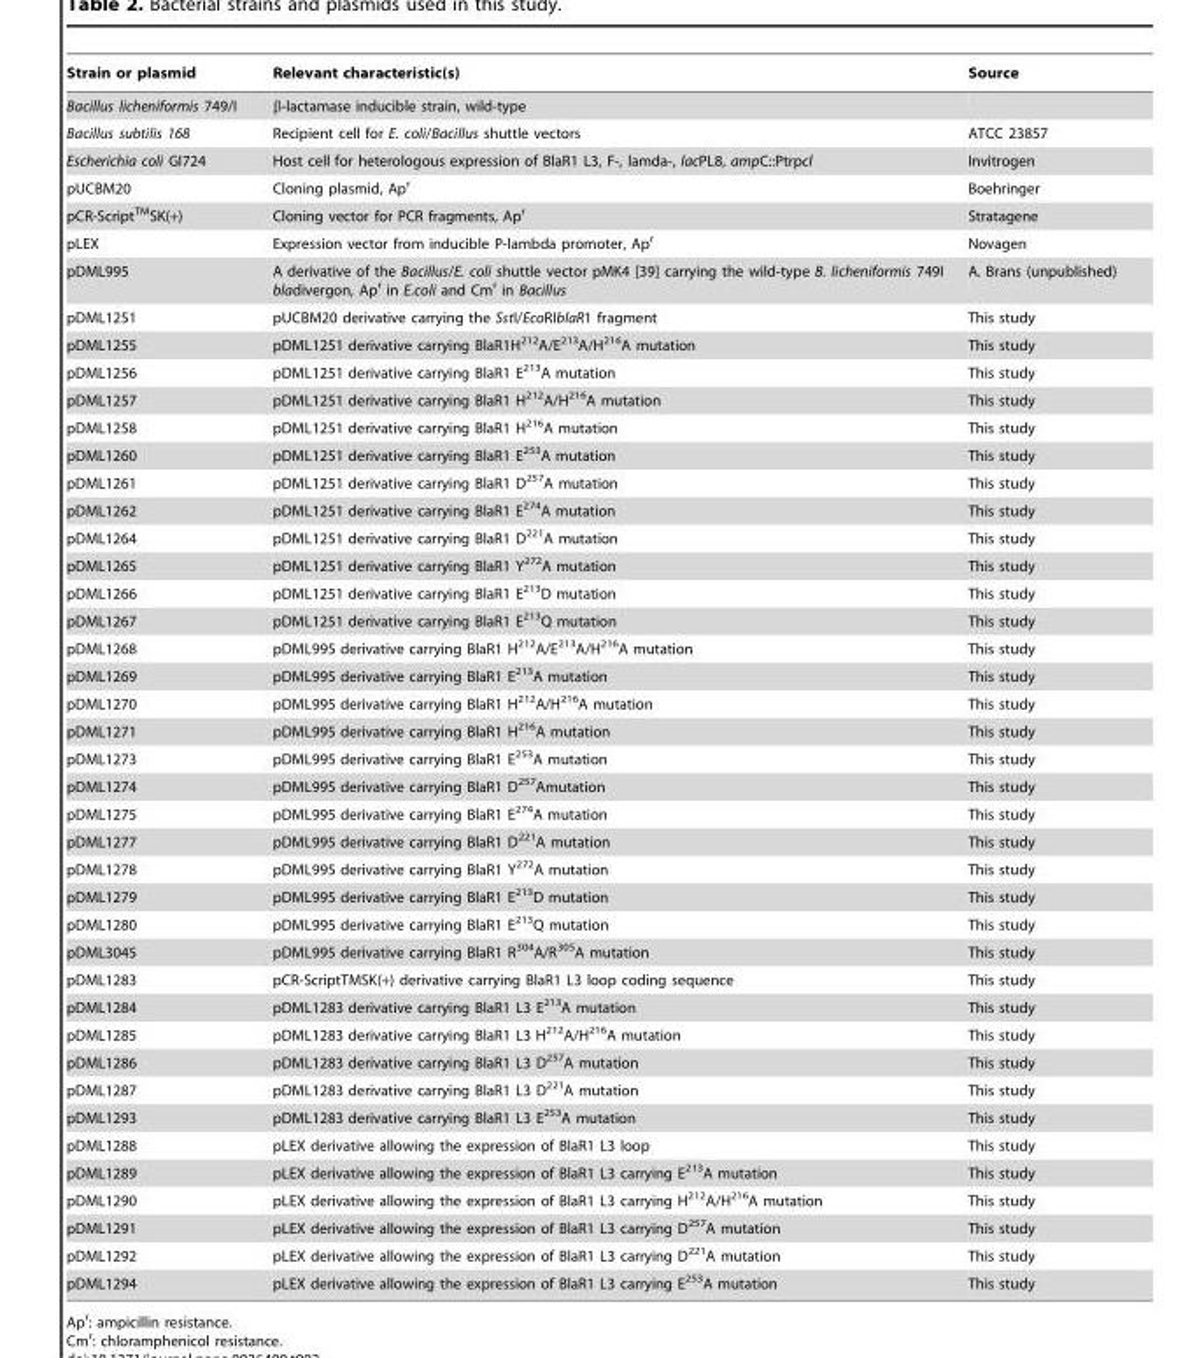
<table><thead><tr><td>Strain or plasmid</td><td>Relevant characteristic(s)</td><td>Source</td></tr></thead><tbody><tr><td>Bacillus licheniformis 749/I</td><td>β-lactamase inducible strain, wild-type</td><td></td></tr><tr><td>Bacillus subtilis 168</td><td>Recipient cell for E. coli/Bacillus shuttle vectors</td><td>ATCC 23857</td></tr><tr><td>Escherichia coli GI724</td><td>Host cell for heterologous expression of BlaR1 L3, F-, lamda-, lacPL8, ampC::Ptrpcl</td><td>Invitrogen</td></tr><tr><td>pUCBM20</td><td>Cloning plasmid, Ap<sup>r</sup></td><td>Boehringer</td></tr><tr><td>pCR-Script<sup>TM</sup>SK(+)</td><td>Cloning vector for PCR fragments, Ap<sup>r</sup></td><td>Stratagene</td></tr><tr><td>pLEX</td><td>Expression vector from inducible P-lambda promoter, Ap<sup>r</sup></td><td>Novagen</td></tr><tr><td>pDML995</td><td>A derivative of the Bacillus/E. coli shuttle vector pMK4 [39] carrying the wild-type B. licheniformis 749I bladivergon, Ap<sup>r</sup> in E.coli and Cm<sup>r</sup> in Bacillus</td><td>A. Brans (unpublished)</td></tr><tr><td>pDML1251</td><td>pUCBM20 derivative carrying the SstI/EcoRIblaR1 fragment</td><td>This study</td></tr><tr><td>pDML1255</td><td>pDML1251 derivative carrying BlaR1H<sup>212</sup>A/E<sup>213</sup>A/H<sup>216</sup>A mutation</td><td>This study</td></tr><tr><td>pDML1256</td><td>pDML1251 derivative carrying BlaR1 E<sup>213</sup>A mutation</td><td>This study</td></tr><tr><td>pDML1257</td><td>pDML1251 derivative carrying BlaR1 H<sup>212</sup>A/H<sup>216</sup>A mutation</td><td>This study</td></tr><tr><td>pDML1258</td><td>pDML1251 derivative carrying BlaR1 H<sup>216</sup>A mutation</td><td>This study</td></tr><tr><td>pDML1260</td><td>pDML1251 derivative carrying BlaR1 E<sup>253</sup>A mutation</td><td>This study</td></tr><tr><td>pDML1261</td><td>pDML1251 derivative carrying BlaR1 D<sup>257</sup>A mutation</td><td>This study</td></tr><tr><td>pDML1262</td><td>pDML1251 derivative carrying BlaR1 E<sup>274</sup>A mutation</td><td>This study</td></tr><tr><td>pDML1264</td><td>pDML1251 derivative carrying BlaR1 D<sup>221</sup>A mutation</td><td>This study</td></tr><tr><td>pDML1265</td><td>pDML1251 derivative carrying BlaR1 Y<sup>272</sup>A mutation</td><td>This study</td></tr><tr><td>pDML1266</td><td>pDML1251 derivative carrying BlaR1 E<sup>213</sup>D mutation</td><td>This study</td></tr><tr><td>pDML1267</td><td>pDML1251 derivative carrying BlaR1 E<sup>213</sup>Q mutation</td><td>This study</td></tr><tr><td>pDML1268</td><td>pDML995 derivative carrying BlaR1 H<sup>212</sup>A/E<sup>213</sup>A/H<sup>216</sup>A mutation</td><td>This study</td></tr><tr><td>pDML1269</td><td>pDML995 derivative carrying BlaR1 E<sup>213</sup>A mutation</td><td>This study</td></tr><tr><td>pDML1270</td><td>pDML995 derivative carrying BlaR1 H<sup>212</sup>A/H<sup>216</sup>A mutation</td><td>This study</td></tr><tr><td>pDML1271</td><td>pDML995 derivative carrying BlaR1 H<sup>216</sup>A mutation</td><td>This study</td></tr><tr><td>pDML1273</td><td>pDML995 derivative carrying BlaR1 E<sup>253</sup>A mutation</td><td>This study</td></tr><tr><td>pDML1274</td><td>pDML995 derivative carrying BlaR1 D<sup>257</sup>Amutation</td><td>This study</td></tr><tr><td>pDML1275</td><td>pDML995 derivative carrying BlaR1 E<sup>274</sup>A mutation</td><td>This study</td></tr><tr><td>pDML1277</td><td>pDML995 derivative carrying BlaR1 D<sup>221</sup>A mutation</td><td>This study</td></tr><tr><td>pDML1278</td><td>pDML995 derivative carrying BlaR1 Y<sup>272</sup>A mutation</td><td>This study</td></tr><tr><td>pDML1279</td><td>pDML995 derivative carrying BlaR1 E<sup>213</sup>D mutation</td><td>This study</td></tr><tr><td>pDML1280</td><td>pDML995 derivative carrying BlaR1 E<sup>213</sup>Q mutation</td><td>This study</td></tr><tr><td>pDML3045</td><td>pDML995 derivative carrying BlaR1 R<sup>304</sup>A/R<sup>305</sup>A mutation</td><td>This study</td></tr><tr><td>pDML1283</td><td>pCR-ScriptTMSK(+) derivative carrying BlaR1 L3 loop coding sequence</td><td>This study</td></tr><tr><td>pDML1284</td><td>pDML1283 derivative carrying BlaR1 L3 E<sup>213</sup>A mutation</td><td>This study</td></tr><tr><td>pDML1285</td><td>pDML1283 derivative carrying BlaR1 L3 H<sup>212</sup>A/H<sup>216</sup>A mutation</td><td>This study</td></tr><tr><td>pDML1286</td><td>pDML1283 derivative carrying BlaR1 L3 D<sup>257</sup>A mutation</td><td>This study</td></tr><tr><td>pDML1287</td><td>pDML1283 derivative carrying BlaR1 L3 D<sup>221</sup>A mutation</td><td>This study</td></tr><tr><td>pDML1293</td><td>pDML1283 derivative carrying BlaR1 L3 E<sup>253</sup>A mutation</td><td>This study</td></tr><tr><td>pDML1288</td><td>pLEX derivative allowing the expression of BlaR1 L3 loop</td><td>This study</td></tr><tr><td>pDML1289</td><td>pLEX derivative allowing the expression of BlaR1 L3 carrying E<sup>213</sup>A mutation</td><td>This study</td></tr><tr><td>pDML1290</td><td>pLEX derivative allowing the expression of BlaR1 L3 carrying H<sup>212</sup>A/H<sup>216</sup>A mutation</td><td>This study</td></tr><tr><td>pDML1291</td><td>pLEX derivative allowing the expression of BlaR1 L3 carrying D<sup>257</sup>A mutation</td><td>This study</td></tr><tr><td>pDML1292</td><td>pLEX derivative allowing the expression of BlaR1 L3 carrying D<sup>221</sup>A mutation</td><td>This study</td></tr><tr><td>pDML1294</td><td>pLEX derivative allowing the expression of BlaR1 L3 carrying E<sup>253</sup>A mutation</td><td>This study</td></tr></tbody></table>